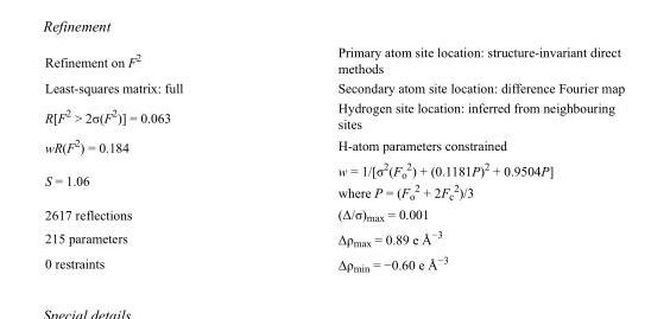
<table><tbody><tr><td>Refinement on F<sup>2</sup></td><td>Primary atom site location: structure-invariant direct methods</td></tr><tr><td>Least-squares matrix: full</td><td>Secondary atom site location: difference Fourier map</td></tr><tr><td>R[F<sup>2</sup> &gt; 2σ(F<sup>2</sup>)] = 0.063</td><td>Hydrogen site location: inferred from neighbouring sites</td></tr><tr><td>wR(F<sup>2</sup>) = 0.184</td><td>H-atom parameters constrained</td></tr><tr><td>S = 1.06</td><td>w = 1/[σ<sup>2</sup>(F<sub>o</sub> <sup>2</sup>) + (0.1181P)<sup>2</sup> + 0.9504P] where P = (F<sub>o</sub> <sup>2</sup> + 2F<sub>c</sub> <sup>2</sup>)/3</td></tr><tr><td>2617 reflections</td><td>(Δ/σ)<sub>max</sub> = 0.001</td></tr><tr><td>215 parameters</td><td>Δρ<sub>max</sub> = 0.89 e Å<sup>−3</sup></td></tr><tr><td>0 restraints</td><td>Δρ<sub>min</sub> = −0.60 e Å<sup>−3</sup></td></tr></tbody></table>